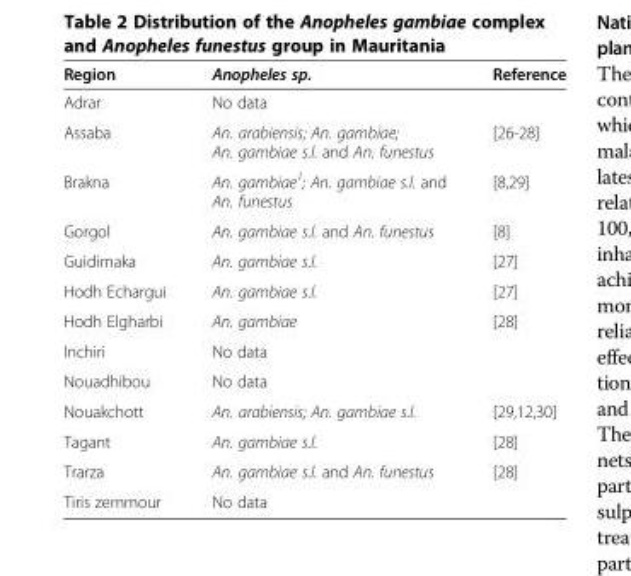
<table><thead><tr><td>Region</td><td>Anopheles sp.</td><td>Reference</td></tr></thead><tbody><tr><td>Adrar</td><td>No data</td><td></td></tr><tr><td>Assaba</td><td>An. arabiensis; An. gambiae; An. gambiae s.l. and An. funestus</td><td>[26-28]</td></tr><tr><td>Brakna</td><td>An. gambiae<sup>1</sup>; An. gambiae s.l. and An. funestus</td><td>[8,29]</td></tr><tr><td>Gorgol</td><td>An. gambiae s.l. and An. funestus</td><td>[8]</td></tr><tr><td>Guidimaka</td><td>An. gambiae s.l.</td><td>[27]</td></tr><tr><td>Hodh Echargui</td><td>An. gambiae s.l.</td><td>[27]</td></tr><tr><td>Hodh Elgharbi</td><td>An. gambiae</td><td>[28]</td></tr><tr><td>Inchiri</td><td>No data</td><td></td></tr><tr><td>Nouadhibou</td><td>No data</td><td></td></tr><tr><td>Nouakchott</td><td>An. arabiensis; An. gambiae s.l.</td><td>[29,12,30]</td></tr><tr><td>Tagant</td><td>An. gambiae s.l.</td><td>[28]</td></tr><tr><td>Trarza</td><td>An. gambiae s.l. and An. funestus</td><td>[28]</td></tr><tr><td>Tiris zemmour</td><td>No data</td><td></td></tr></tbody></table>